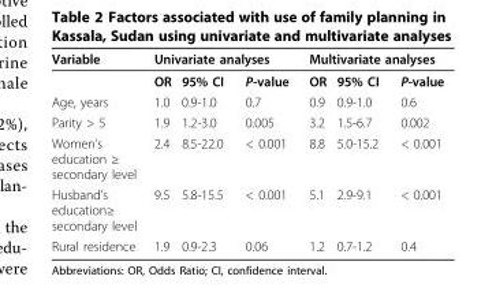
<table><thead><tr><td rowspan="2">Variable</td><td colspan="3">Univariate analyses</td><td colspan="3">Multivariate analyses</td></tr><tr><td>OR</td><td>95% CI</td><td>P-value</td><td>OR</td><td>95% CI</td><td>P-value</td></tr></thead><tbody><tr><td>Age, years</td><td>1.0</td><td>0.9-1.0</td><td>0.7</td><td>0.9</td><td>0.9-1.0</td><td>0.6</td></tr><tr><td>Parity &gt; 5</td><td>1.9</td><td>1.2-3.0</td><td>0.005</td><td>3.2</td><td>1.5-6.7</td><td>0.002</td></tr><tr><td>Women’s education ≥ secondary level</td><td>2.4</td><td>8.5-22.0</td><td>&lt; 0.001</td><td>8.8</td><td>5.0-15.2</td><td>&lt; 0.001</td></tr><tr><td>Husband’s education≥ secondary level</td><td>9.5</td><td>5.8-15.5</td><td>&lt; 0.001</td><td>5.1</td><td>2.9-9.1</td><td>&lt; 0.001</td></tr><tr><td>Rural residence</td><td>1.9</td><td>0.9-2.3</td><td>0.06</td><td>1.2</td><td>0.7-1.2</td><td>0.4</td></tr></tbody></table>